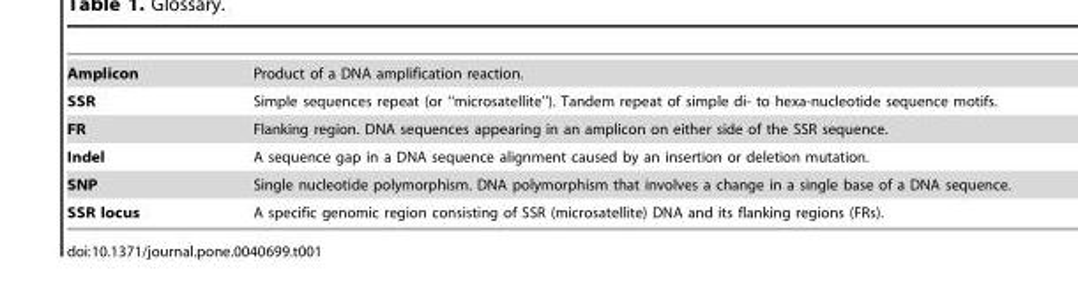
<table><tbody><tr><td>Amplicon</td><td>Product of a DNA amplification reaction.</td></tr><tr><td>SSR</td><td>Simple sequences repeat (or ‘‘microsatellite’’). Tandem repeat of simple di- to hexa-nucleotide sequence motifs.</td></tr><tr><td>FR</td><td>Flanking region. DNA sequences appearing in an amplicon on either side of the SSR sequence.</td></tr><tr><td>Indel</td><td>A sequence gap in a DNA sequence alignment caused by an insertion or deletion mutation.</td></tr><tr><td>SNP</td><td>Single nucleotide polymorphism. DNA polymorphism that involves a change in a single base of a DNA sequence.</td></tr><tr><td>SSR locus</td><td>A specific genomic region consisting of SSR (microsatellite) DNA and its flanking regions (FRs).</td></tr></tbody></table>